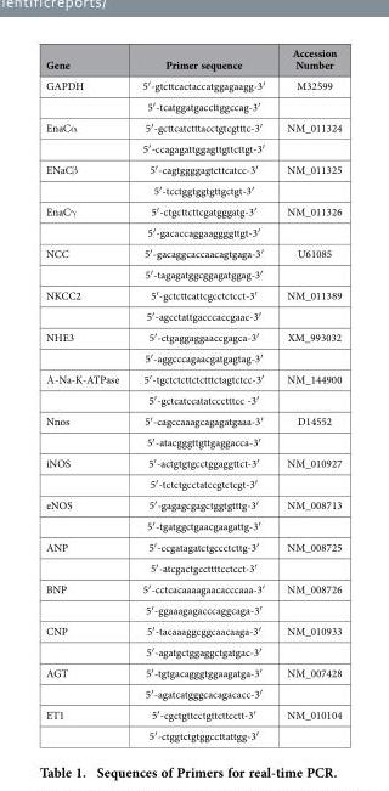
<table><thead><tr><td>Gene</td><td>Primer sequence</td><td>Accession Number</td></tr></thead><tbody><tr><td rowspan="2">GAPDH</td><td>5′ -gtcttcactaccatggagaagg-3′</td><td>M32599</td></tr><tr><td>5′ -tcatggatgaccttggccag-3′</td><td></td></tr><tr><td rowspan="2">EnaCα</td><td>5′ -gcttcatctttacctgtcgtttc-3′</td><td>NM_011324</td></tr><tr><td>5′ -ccagagattggagttgttcttgt-3′</td><td></td></tr><tr><td rowspan="2">ENaCβ</td><td>5′ -cagtggggagtcttcatcc-3′</td><td>NM_011325</td></tr><tr><td>5′ -tcctggtggtgttgctgt-3′</td><td></td></tr><tr><td rowspan="2">EnaCγ</td><td>5′ -ctgcttcttcgatgggatg-3′</td><td>NM_011326</td></tr><tr><td>5′ -gacaccaggaaggggttgt-3′</td><td></td></tr><tr><td rowspan="2">NCC</td><td>5′ -gacaggcaccaacagtgaga-3′</td><td>U61085</td></tr><tr><td>5′ -tagagatggcggagatggag-3′</td><td></td></tr><tr><td rowspan="2">NKCC2</td><td>5′ -gctcttcattcgcctctcct-3′</td><td>NM_011389</td></tr><tr><td>5′ -agcctattgacccaccgaac-3′</td><td></td></tr><tr><td rowspan="2">NHE3</td><td>5′ -ctgaggaggaaccgagca-3′</td><td>XM_993032</td></tr><tr><td>5′ -aggcccagaacgatgagtag-3′</td><td></td></tr><tr><td rowspan="2">Α -Na-K-ATPase</td><td>5′ -tgctctcttctctttctagtctcc-3′</td><td>NM_144900</td></tr><tr><td>5′ -gctcatccatatccctttcc -3′</td><td></td></tr><tr><td rowspan="2">Nnos</td><td>5′ -cagccaaagcagagatgaaa-3′</td><td>D14552</td></tr><tr><td>5′ -atacgggttgttgaggacca-3′</td><td></td></tr><tr><td rowspan="2">iNOS</td><td>5′ -actgtgtgcctggaggttct-3′</td><td>NM_010927</td></tr><tr><td>5′ -tctctgcctatccgtctcgt-3′</td><td></td></tr><tr><td rowspan="2">eNOS</td><td>5′ -gagagcgagctggtgtttg-3′</td><td>NM_008713</td></tr><tr><td>5′ -tgatggctgaacgaagattg-3′</td><td></td></tr><tr><td rowspan="2">ANP</td><td>5′ -ccgatagatctgccctcttg-3′</td><td>NM_008725</td></tr><tr><td>5′ -atcgactgccttttcctcct-3′</td><td></td></tr><tr><td rowspan="2">BNP</td><td>5′ -cctcacaaaagaacacccaaa-3′</td><td>NM_008726</td></tr><tr><td>5′ -ggaaagagacccaggcaga-3′</td><td></td></tr><tr><td rowspan="2">CNP</td><td>5′ -tacaaaggcggcaacaaga-3′</td><td>NM_010933</td></tr><tr><td>5′ -agatgctggaggctgatgac-3′</td><td></td></tr><tr><td rowspan="2">AGT</td><td>5′ -tgtgacagggtggaagatga-3′</td><td>NM_007428</td></tr><tr><td>5′ -agatcatgggcacagacacc-3′</td><td></td></tr><tr><td rowspan="2">ET1</td><td>5′ -cgctgttcctgttcttcctt-3′</td><td>NM_010104</td></tr><tr><td>5′ -ctggtctgtggccttattgg-3′</td><td></td></tr></tbody></table>